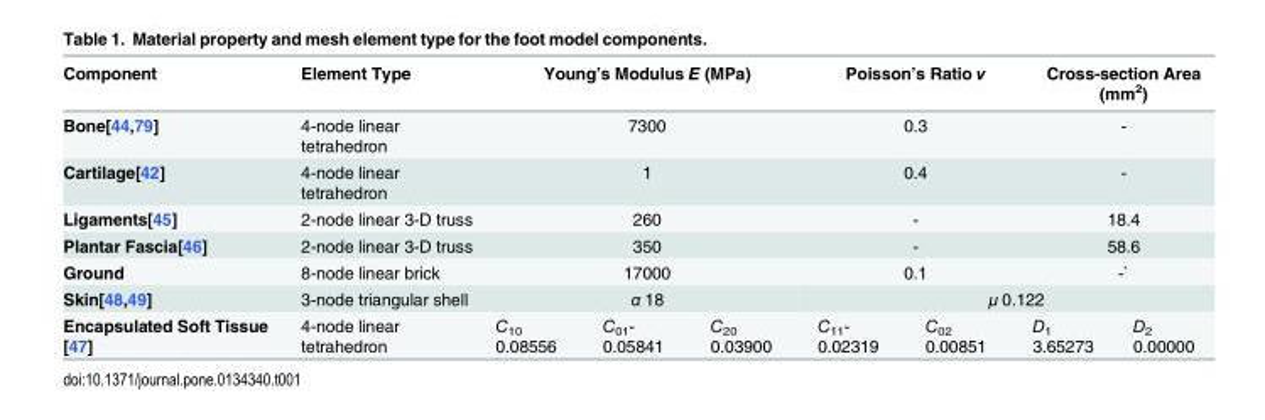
<table><thead><tr><td>Component</td><td>Element Type</td><td colspan="3">Young’s Modulus E (MPa)</td><td colspan="2">Poisson’s Ratio v</td><td colspan="2">Cross-section Area (mm<sup>2</sup>)</td></tr></thead><tbody><tr><td>Bone[44,79]</td><td>4-node linear tetrahedron</td><td colspan="3">7300</td><td colspan="2">0.3</td><td colspan="2">-</td></tr><tr><td>Cartilage[42]</td><td>4-node linear tetrahedron</td><td colspan="3">1</td><td colspan="2">0.4</td><td colspan="2">-</td></tr><tr><td>Ligaments[45]</td><td>2-node linear 3-D truss</td><td colspan="3">260</td><td colspan="2">-</td><td colspan="2">18.4</td></tr><tr><td>Plantar Fascia[46]</td><td>2-node linear 3-D truss</td><td colspan="3">350</td><td colspan="2">-</td><td colspan="2">58.6</td></tr><tr><td>Ground</td><td>8-node linear brick</td><td colspan="3">17000</td><td colspan="2">0.1</td><td colspan="2">-`</td></tr><tr><td>Skin[48,49]</td><td>3-node triangular shell</td><td colspan="3">α 18</td><td colspan="4">μ 0.122</td></tr><tr><td>Encapsulated Soft Tissue [47]</td><td>4-node linear tetrahedron</td><td>C<sub>10</sub> 0.08556</td><td>C<sub>01</sub>- 0.05841</td><td>C<sub>20</sub> 0.03900</td><td>C<sub>11</sub>- 0.02319</td><td>C<sub>02</sub> 0.00851</td><td>D<sub>1</sub> 3.65273</td><td>D<sub>2</sub> 0.00000</td></tr></tbody></table>